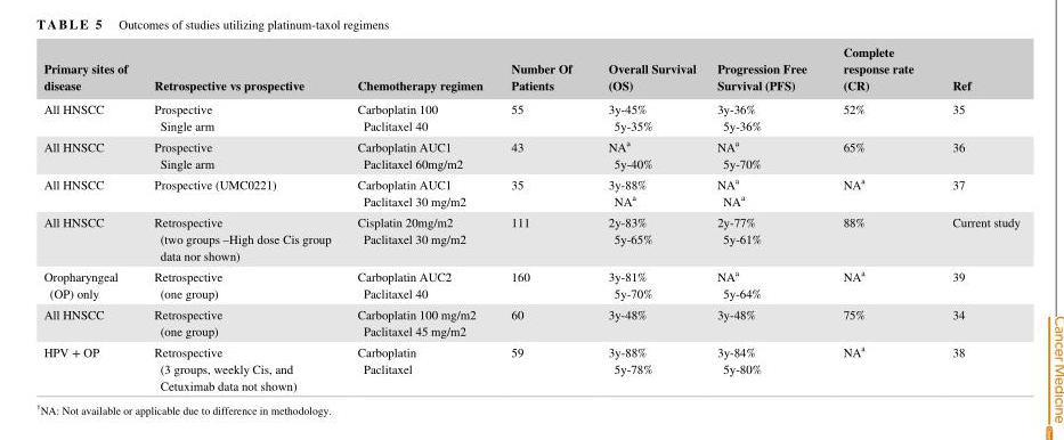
<table><thead><tr><td>Primary sites of disease</td><td>Retrospective vs prospective</td><td>Chemotherapy regimen</td><td>Number Of Patients</td><td>Overall Survival (OS)</td><td>Progression Free Survival (PFS)</td><td>Complete response rate (CR)</td><td>Ref</td></tr></thead><tbody><tr><td>All HNSCC</td><td>Prospective Single arm</td><td>Carboplatin 100 Paclitaxel 40</td><td>55</td><td>3y‐45% 5y‐35%</td><td>3y‐36% 5y‐36%</td><td>52%</td><td>35</td></tr><tr><td>All HNSCC</td><td>Prospective Single arm</td><td>Carboplatin AUC1 Paclitaxel 60mg/m2</td><td>43</td><td>NA<sup>†</sup> 5y‐40%</td><td>NA<sup>†</sup> 5y‐70%</td><td>65%</td><td>36</td></tr><tr><td>All HNSCC</td><td>Prospective (UMC0221)</td><td>Carboplatin AUC1 Paclitaxel 30 mg/m2</td><td>35</td><td>3y‐88% NA<sup>†</sup></td><td>NA<sup>†</sup> NA<sup>†</sup></td><td>NA<sup>†</sup></td><td>37</td></tr><tr><td>All HNSCC</td><td>Retrospective (two groups –High dose Cis group data nor shown)</td><td>Cisplatin 20mg/m2 Paclitaxel 30 mg/m2</td><td>111</td><td>2y‐83% 5y‐65%</td><td>2y‐77% 5y‐61%</td><td>88%</td><td>Current study</td></tr><tr><td>Oropharyngeal (OP) only</td><td>Retrospective (one group)</td><td>Carboplatin AUC2 Paclitaxel 40</td><td>160</td><td>3y‐81% 5y‐70%</td><td>NA<sup>†</sup> 5y‐64%</td><td>NA<sup>†</sup></td><td>39</td></tr><tr><td>All HNSCC</td><td>Retrospective (one group)</td><td>Carboplatin 100 mg/m2 Paclitaxel 45 mg/m2</td><td>60</td><td>3y‐48%</td><td>3y‐48%</td><td>75%</td><td>34</td></tr><tr><td>HPV + OP</td><td>Retrospective (3 groups, weekly Cis, and Cetuximab data not shown)</td><td>Carboplatin Paclitaxel</td><td>59</td><td>3y‐88% 5y‐78%</td><td>3y‐84% 5y‐80%</td><td>NA<sup>†</sup></td><td>38</td></tr></tbody></table>